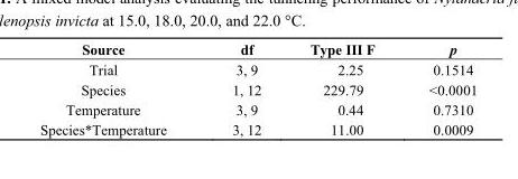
<table><thead><tr><td>Source</td><td>df</td><td>Type III F</td><td>p</td></tr></thead><tbody><tr><td>Trial</td><td>3, 9</td><td>2.25</td><td>0.1514</td></tr><tr><td>Species</td><td>1, 12</td><td>229.79</td><td>&lt;0.0001</td></tr><tr><td>Temperature</td><td>3, 9</td><td>0.44</td><td>0.7310</td></tr><tr><td>Species*Temperature</td><td>3, 12</td><td>11.00</td><td>0.0009</td></tr></tbody></table>